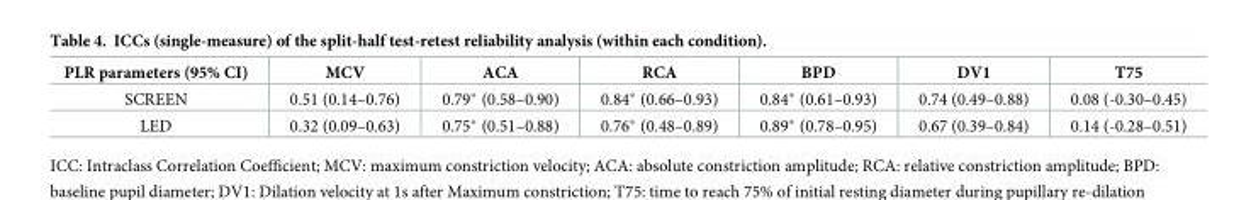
<table><thead><tr><td>PLR parameters (95% CI)</td><td>MCV</td><td>ACA</td><td>RCA</td><td>BPD</td><td>DV1</td><td>T75</td></tr></thead><tbody><tr><td>SCREEN</td><td>0.51 (0.14–0.76)</td><td>0.79* (0.58–0.90)</td><td>0.84* (0.66–0.93)</td><td>0.84* (0.61–0.93)</td><td>0.74 (0.49–0.88)</td><td>0.08 (-0.30–0.45)</td></tr><tr><td>LED</td><td>0.32 (0.09–0.63)</td><td>0.75* (0.51–0.88)</td><td>0.76* (0.48–0.89)</td><td>0.89* (0.78–0.95)</td><td>0.67 (0.39–0.84)</td><td>0.14 (-0.28–0.51)</td></tr></tbody></table>